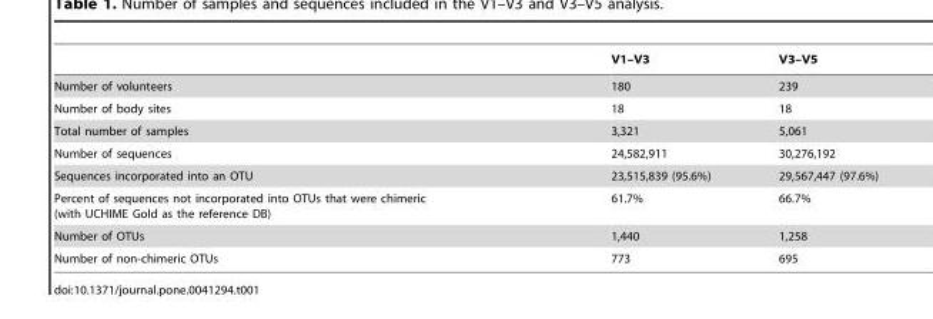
<table><thead><tr><td></td><td>V1–V3</td><td>V3–V5</td></tr></thead><tbody><tr><td>Number of volunteers</td><td>180</td><td>239</td></tr><tr><td>Number of body sites</td><td>18</td><td>18</td></tr><tr><td>Total number of samples</td><td>3,321</td><td>5,061</td></tr><tr><td>Number of sequences</td><td>24,582,911</td><td>30,276,192</td></tr><tr><td>Sequences incorporated into an OTU</td><td>23,515,839 (95.6%)</td><td>29,567,447 (97.6%)</td></tr><tr><td>Percent of sequences not incorporated into OTUs that were chimeric (with UCHIME Gold as the reference DB)</td><td>61.7%</td><td>66.7%</td></tr><tr><td>Number of OTUs</td><td>1,440</td><td>1,258</td></tr><tr><td>Number of non-chimeric OTUs</td><td>773</td><td>695</td></tr></tbody></table>